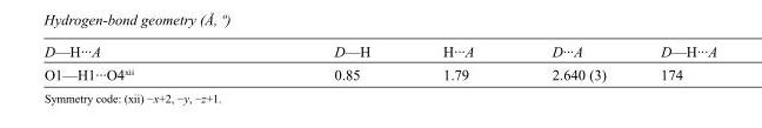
<table><tbody><tr><td>D—H···A</td><td>D—H</td><td>H···A</td><td>D···A</td><td>D—H···A</td></tr><tr><td>O1—H1···O4<sup>xii</sup></td><td>0.85</td><td>1.79</td><td>2.640 (3)</td><td>174</td></tr></tbody></table>